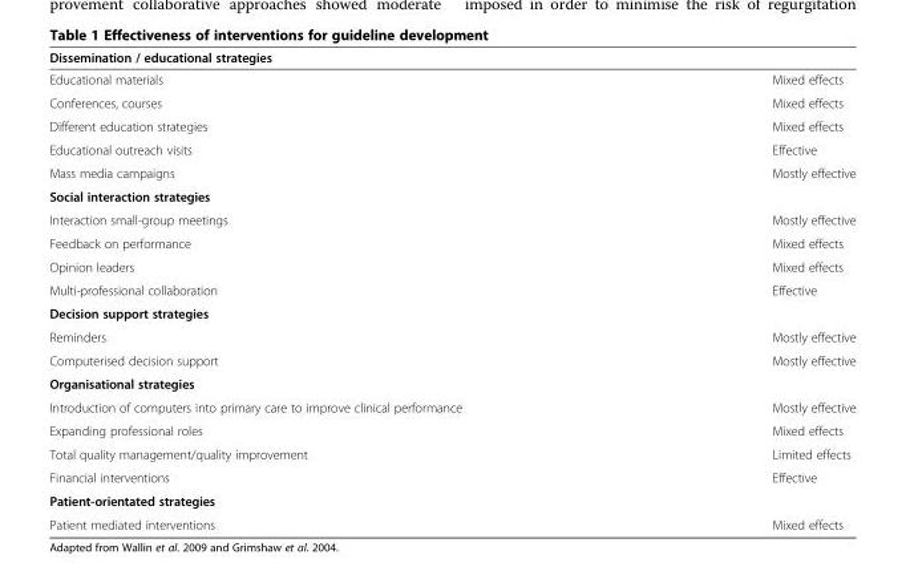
<table><thead><tr><td>Dissemination / educational strategies</td><td></td></tr></thead><tbody><tr><td>Educational materials</td><td>Mixed effects</td></tr><tr><td>Conferences, courses</td><td>Mixed effects</td></tr><tr><td>Different education strategies</td><td>Mixed effects</td></tr><tr><td>Educational outreach visits</td><td>Effective</td></tr><tr><td>Mass media campaigns</td><td>Mostly effective</td></tr><tr><td colspan="2">Social interaction strategies</td></tr><tr><td>Interaction small-group meetings</td><td>Mostly effective</td></tr><tr><td>Feedback on performance</td><td>Mixed effects</td></tr><tr><td>Opinion leaders</td><td>Mixed effects</td></tr><tr><td>Multi-professional collaboration</td><td>Effective</td></tr><tr><td colspan="2">Decision support strategies</td></tr><tr><td>Reminders</td><td>Mostly effective</td></tr><tr><td>Computerised decision support</td><td>Mostly effective</td></tr><tr><td colspan="2">Organisational strategies</td></tr><tr><td>Introduction of computers into primary care to improve clinical performance</td><td>Mostly effective</td></tr><tr><td>Expanding professional roles</td><td>Mixed effects</td></tr><tr><td>Total quality management/quality improvement</td><td>Limited effects</td></tr><tr><td>Financial interventions</td><td>Effective</td></tr><tr><td colspan="2">Patient-orientated strategies</td></tr><tr><td>Patient mediated interventions</td><td>Mixed effects</td></tr></tbody></table>